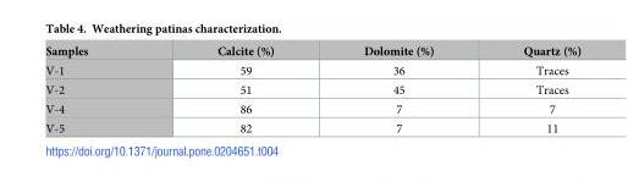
<table><thead><tr><td>Samples</td><td>Calcite (%)</td><td>Dolomite (%)</td><td>Quartz (%)</td></tr></thead><tbody><tr><td>V-1</td><td>59</td><td>36</td><td>Traces</td></tr><tr><td>V-2</td><td>51</td><td>45</td><td>Traces</td></tr><tr><td>V-4</td><td>86</td><td>7</td><td>7</td></tr><tr><td>V-5</td><td>82</td><td>7</td><td>11</td></tr></tbody></table>